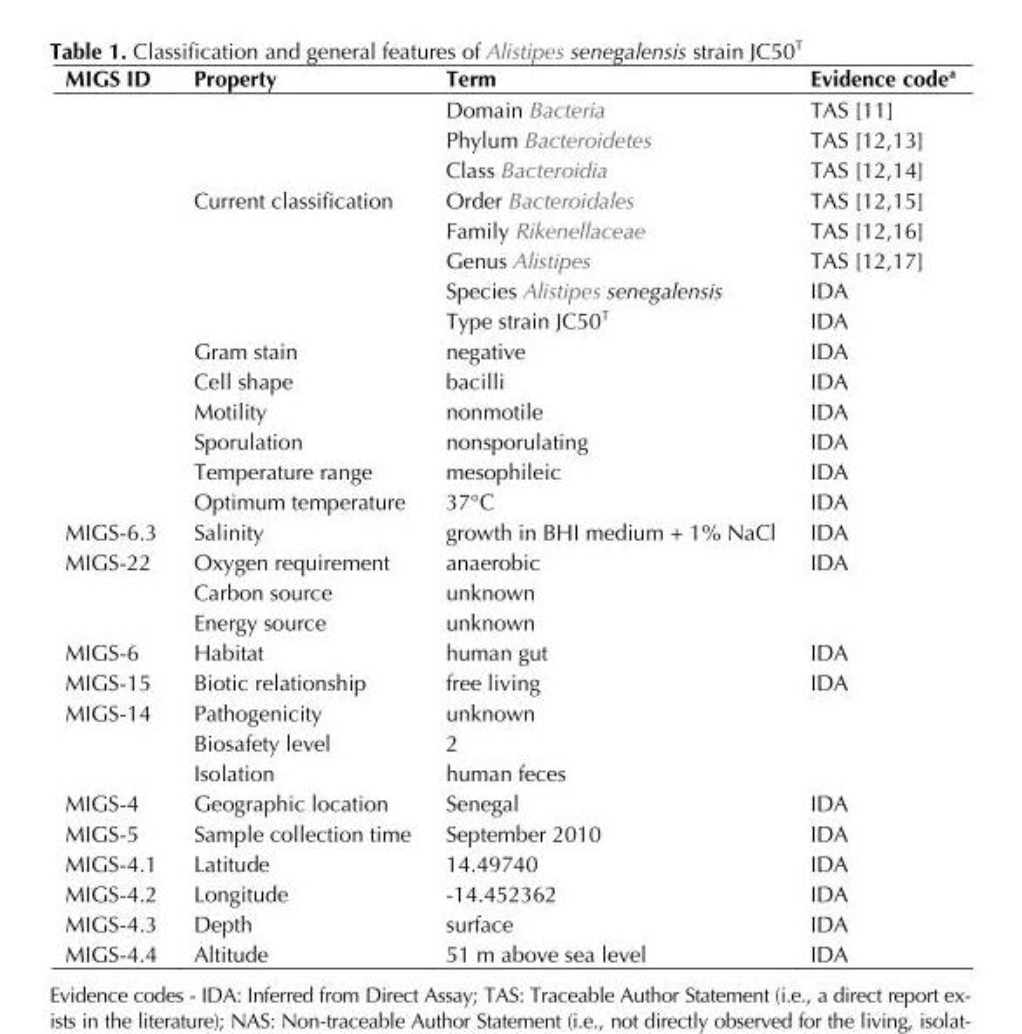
<table><thead><tr><td>MIGS ID</td><td>Property</td><td>Term</td><td>Evidence code<sup>a</sup></td></tr></thead><tbody><tr><td></td><td></td><td>Domain Bacteria</td><td>TAS [11]</td></tr><tr><td></td><td></td><td>Phylum Bacteroidetes</td><td>TAS [12,13]</td></tr><tr><td></td><td></td><td>Class Bacteroidia</td><td>TAS [12,14]</td></tr><tr><td></td><td>Current classification</td><td>Order Bacteroidales</td><td>TAS [12,15]</td></tr><tr><td></td><td></td><td>Family Rikenellaceae</td><td>TAS [12,16]</td></tr><tr><td></td><td></td><td>Genus Alistipes</td><td>TAS [12,17]</td></tr><tr><td></td><td></td><td>Species Alistipes senegalensis</td><td>IDA</td></tr><tr><td></td><td></td><td>Type strain JC50<sup>T</sup></td><td>IDA</td></tr><tr><td></td><td>Gram stain</td><td>negative</td><td>IDA</td></tr><tr><td></td><td>Cell shape</td><td>bacilli</td><td>IDA</td></tr><tr><td></td><td>Motility</td><td>nonmotile</td><td>IDA</td></tr><tr><td></td><td>Sporulation</td><td>nonsporulating</td><td>IDA</td></tr><tr><td></td><td>Temperature range</td><td>mesophileic</td><td>IDA</td></tr><tr><td></td><td>Optimum temperature</td><td>37°C</td><td>IDA</td></tr><tr><td>MIGS-6.3</td><td>Salinity</td><td>growth in BHI medium + 1% NaCl</td><td>IDA</td></tr><tr><td rowspan="3">MIGS-22</td><td>Oxygen requirement</td><td>anaerobic</td><td>IDA</td></tr><tr><td>Carbon source</td><td>unknown</td><td></td></tr><tr><td>Energy source</td><td>unknown</td><td></td></tr><tr><td>MIGS-6</td><td>Habitat</td><td>human gut</td><td>IDA</td></tr><tr><td>MIGS-15</td><td>Biotic relationship</td><td>free living</td><td>IDA</td></tr><tr><td rowspan="3">MIGS-14</td><td>Pathogenicity</td><td>unknown</td><td></td></tr><tr><td>Biosafety level</td><td>2</td><td></td></tr><tr><td>Isolation</td><td>human feces</td><td></td></tr><tr><td>MIGS-4</td><td>Geographic location</td><td>Senegal</td><td>IDA</td></tr><tr><td>MIGS-5</td><td>Sample collection time</td><td>September 2010</td><td>IDA</td></tr><tr><td>MIGS-4.1</td><td>Latitude</td><td>14.49740</td><td>IDA</td></tr><tr><td>MIGS-4.2</td><td>Longitude</td><td>-14.452362</td><td>IDA</td></tr><tr><td>MIGS-4.3</td><td>Depth</td><td>surface</td><td>IDA</td></tr><tr><td>MIGS-4.4</td><td>Altitude</td><td>51 m above sea level</td><td>IDA</td></tr></tbody></table>